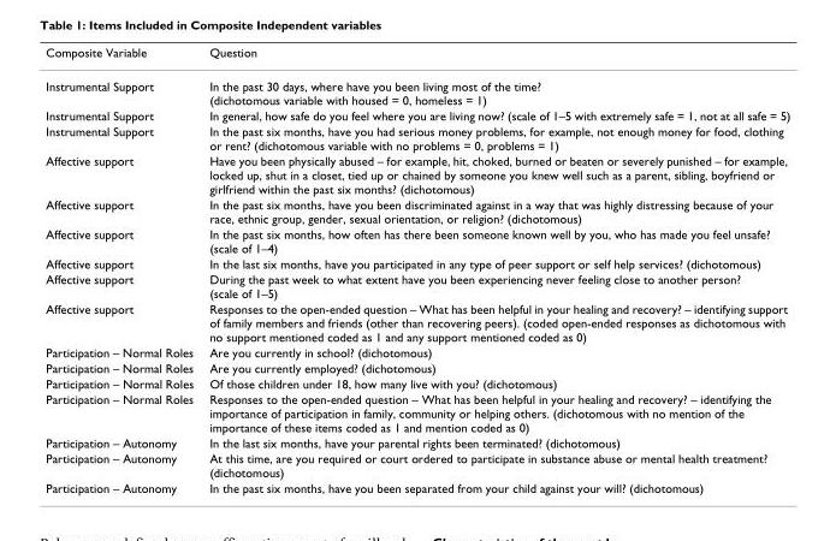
<table><thead><tr><td>Composite Variable</td><td>Question</td></tr></thead><tbody><tr><td>Instrumental Support</td><td>In the past 30 days, where have you been living most of the time? (dichotomous variable with housed = 0, homeless = 1)</td></tr><tr><td>Instrumental Support</td><td>In general, how safe do you feel where you are living now? (scale of 1–5 with extremely safe = 1, not at all safe = 5)</td></tr><tr><td>Instrumental Support</td><td>In the past six months, have you had serious money problems, for example, not enough money for food, clothing or rent? (dichotomous variable with no problems = 0, problems = 1)</td></tr><tr><td>Affective support</td><td>Have you been physically abused – for example, hit, choked, burned or beaten or severely punished – for example, locked up, shut in a closet, tied up or chained by someone you knew well such as a parent, sibling, boyfriend or girlfriend within the past six months? (dichotomous)</td></tr><tr><td>Affective support</td><td>In the past six months, have you been discriminated against in a way that was highly distressing because of your race, ethnic group, gender, sexual orientation, or religion? (dichotomous)</td></tr><tr><td>Affective support</td><td>In the past six months, how often has there been someone known well by you, who has made you feel unsafe? (scale of 1–4)</td></tr><tr><td>Affective support</td><td>In the last six months, have you participated in any type of peer support or self help services? (dichotomous)</td></tr><tr><td>Affective support</td><td>During the past week to what extent have you been experiencing never feeling close to another person? (scale of 1–5)</td></tr><tr><td>Affective support</td><td>Responses to the open-ended question – What has been helpful in your healing and recovery? – identifying support of family members and friends (other than recovering peers). (coded open-ended responses as dichotomous with no support mentioned coded as 1 and any support mentioned coded as 0)</td></tr><tr><td>Participation – Normal Roles</td><td>Are you currently in school? (dichotomous)</td></tr><tr><td>Participation – Normal Roles</td><td>Are you currently employed? (dichotomous)</td></tr><tr><td>Participation – Normal Roles</td><td>Of those children under 18, how many live with you? (dichotomous)</td></tr><tr><td>Participation – Normal Roles</td><td>Responses to the open-ended question – What has been helpful in your healing and recovery? – identifying the importance of participation in family, community or helping others. (dichotomous with no mention of the importance of these items coded as 1 and mention coded as 0)</td></tr><tr><td>Participation – Autonomy</td><td>In the last six months, have your parental rights been terminated? (dichotomous)</td></tr><tr><td>Participation – Autonomy</td><td>At this time, are you required or court ordered to participate in substance abuse or mental health treatment? (dichotomous)</td></tr><tr><td>Participation – Autonomy</td><td>In the past six months, have you been separated from your child against your will? (dichotomous)</td></tr></tbody></table>